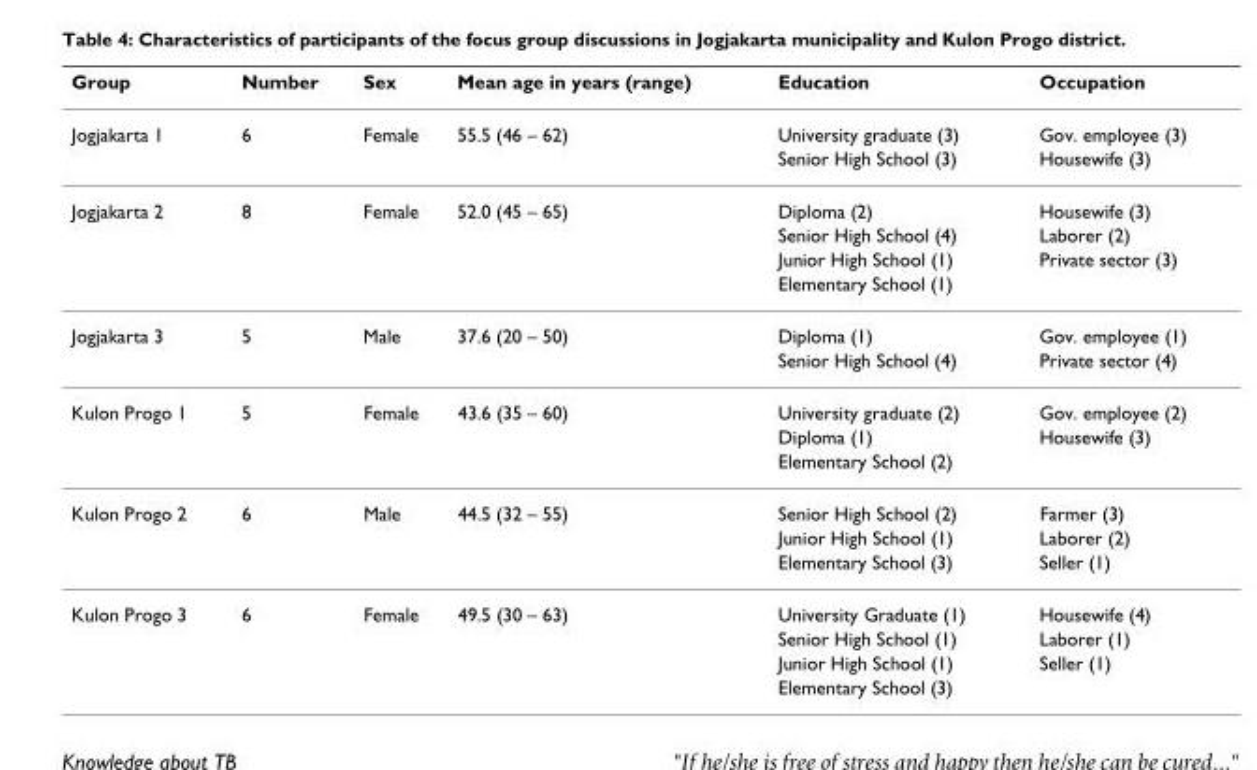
<table><thead><tr><td>Group</td><td>Number</td><td>Sex</td><td>Mean age in years (range)</td><td>Education</td><td>Occupation</td></tr></thead><tbody><tr><td rowspan="2">Jogjakarta 1</td><td>6</td><td>Female</td><td>55.5 (46 – 62)</td><td>University graduate (3)</td><td>Gov. employee (3)</td></tr><tr><td></td><td></td><td></td><td>Senior High School (3)</td><td>Housewife (3)</td></tr><tr><td rowspan="4">Jogjakarta 2</td><td>8</td><td>Female</td><td>52.0 (45 – 65)</td><td>Diploma (2)</td><td>Housewife (3)</td></tr><tr><td></td><td></td><td></td><td>Senior High School (4)</td><td>Laborer (2)</td></tr><tr><td></td><td></td><td></td><td>Junior High School (1)</td><td>Private sector (3)</td></tr><tr><td></td><td></td><td></td><td>Elementary School (1)</td><td></td></tr><tr><td rowspan="2">Jogjakarta 3</td><td>5</td><td>Male</td><td>37.6 (20 – 50)</td><td>Diploma (1)</td><td>Gov. employee (1)</td></tr><tr><td></td><td></td><td></td><td>Senior High School (4)</td><td>Private sector (4)</td></tr><tr><td rowspan="3">Kulon Progo 1</td><td>5</td><td>Female</td><td>43.6 (35 – 60)</td><td>University graduate (2)</td><td>Gov. employee (2)</td></tr><tr><td></td><td></td><td></td><td>Diploma (1)</td><td>Housewife (3)</td></tr><tr><td></td><td></td><td></td><td>Elementary School (2)</td><td></td></tr><tr><td rowspan="3">Kulon Progo 2</td><td>6</td><td>Male</td><td>44.5 (32 – 55)</td><td>Senior High School (2)</td><td>Farmer (3)</td></tr><tr><td></td><td></td><td></td><td>Junior High School (1)</td><td>Laborer (2)</td></tr><tr><td></td><td></td><td></td><td>Elementary School (3)</td><td>Seller (1)</td></tr><tr><td rowspan="4">Kulon Progo 3</td><td>6</td><td>Female</td><td>49.5 (30 – 63)</td><td>University Graduate (1)</td><td>Housewife (4)</td></tr><tr><td></td><td></td><td></td><td>Senior High School (1)</td><td>Laborer (1)</td></tr><tr><td></td><td></td><td></td><td>Junior High School (1)</td><td>Seller (1)</td></tr><tr><td></td><td></td><td></td><td>Elementary School (3)</td><td></td></tr></tbody></table>